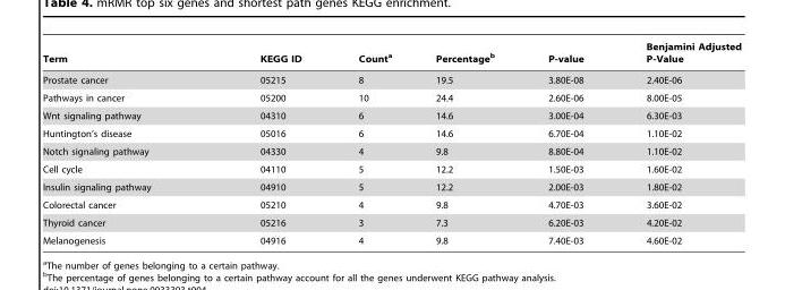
<table><thead><tr><td>Term</td><td>KEGG ID</td><td>Count<sup>a</sup></td><td>Percentage<sup>b</sup></td><td>P-value</td><td>Benjamini Adjusted P-Value</td></tr></thead><tbody><tr><td>Prostate cancer</td><td>05215</td><td>8</td><td>19.5</td><td>3.80E-08</td><td>2.40E-06</td></tr><tr><td>Pathways in cancer</td><td>05200</td><td>10</td><td>24.4</td><td>2.60E-06</td><td>8.00E-05</td></tr><tr><td>Wnt signaling pathway</td><td>04310</td><td>6</td><td>14.6</td><td>3.00E-04</td><td>6.30E-03</td></tr><tr><td>Huntington’s disease</td><td>05016</td><td>6</td><td>14.6</td><td>6.70E-04</td><td>1.10E-02</td></tr><tr><td>Notch signaling pathway</td><td>04330</td><td>4</td><td>9.8</td><td>8.80E-04</td><td>1.10E-02</td></tr><tr><td>Cell cycle</td><td>04110</td><td>5</td><td>12.2</td><td>1.50E-03</td><td>1.60E-02</td></tr><tr><td>Insulin signaling pathway</td><td>04910</td><td>5</td><td>12.2</td><td>2.00E-03</td><td>1.80E-02</td></tr><tr><td>Colorectal cancer</td><td>05210</td><td>4</td><td>9.8</td><td>4.70E-03</td><td>3.60E-02</td></tr><tr><td>Thyroid cancer</td><td>05216</td><td>3</td><td>7.3</td><td>6.20E-03</td><td>4.20E-02</td></tr><tr><td>Melanogenesis</td><td>04916</td><td>4</td><td>9.8</td><td>7.40E-03</td><td>4.60E-02</td></tr></tbody></table>